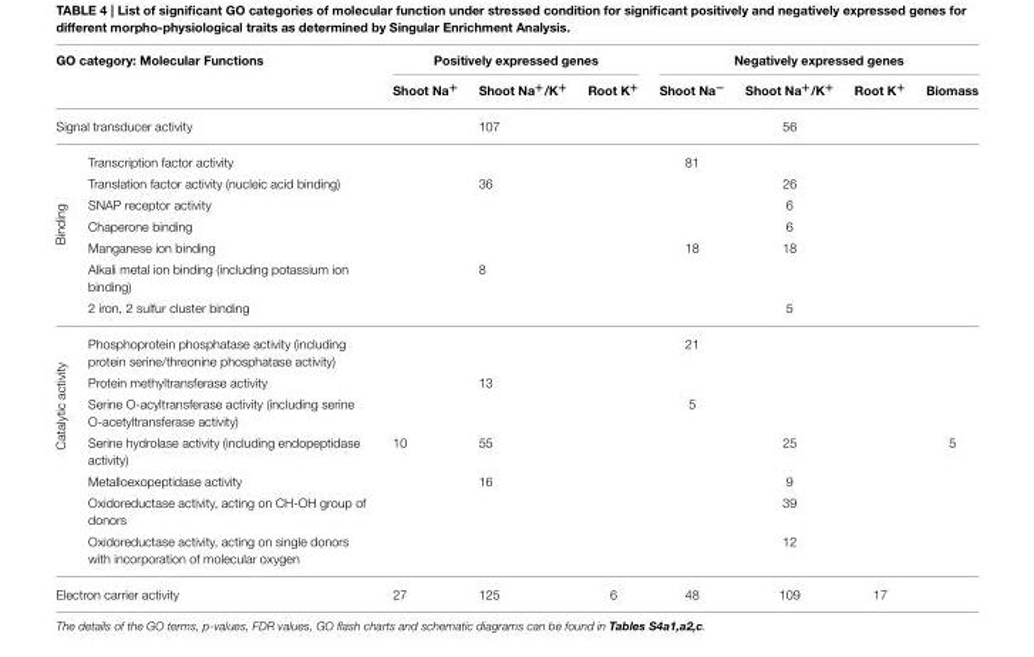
<table><thead><tr><td colspan="2">GO category: Molecular Functions</td><td colspan="3">Positively expressed genes</td><td colspan="4">Negatively expressed genes</td></tr><tr><td></td><td></td><td>Shoot Na<sup>+</sup></td><td>Shoot Na<sup>+</sup>/K<sup>+</sup></td><td>Root K<sup>+</sup></td><td>Shoot Na<sup>−</sup></td><td>Shoot Na<sup>+</sup>/K<sup>+</sup></td><td>Root K<sup>+</sup></td><td>Biomass</td></tr></thead><tbody><tr><td colspan="2">Signal transducer activity</td><td></td><td>107</td><td></td><td></td><td>56</td><td></td><td></td></tr><tr><td rowspan="7">Binding</td><td>Transcription factor activity</td><td></td><td></td><td></td><td>81</td><td></td><td></td><td></td></tr><tr><td>Translation factor activity (nucleic acid binding)</td><td></td><td>36</td><td></td><td></td><td>26</td><td></td><td></td></tr><tr><td>SNAP receptor activity</td><td></td><td></td><td></td><td></td><td>6</td><td></td><td></td></tr><tr><td>Chaperone binding</td><td></td><td></td><td></td><td></td><td>6</td><td></td><td></td></tr><tr><td>Manganese ion binding</td><td></td><td></td><td></td><td>18</td><td>18</td><td></td><td></td></tr><tr><td>Alkali metal ion binding (including potassium ion binding)</td><td></td><td>8</td><td></td><td></td><td></td><td></td><td></td></tr><tr><td>2 iron, 2 sulfur cluster binding</td><td></td><td></td><td></td><td></td><td>5</td><td></td><td></td></tr><tr><td rowspan="7">Catalytic activity</td><td>Phosphoprotein phosphatase activity (including protein serine/threonine phosphatase activity)</td><td></td><td></td><td></td><td>21</td><td></td><td></td><td></td></tr><tr><td>Protein methyltransferase activity</td><td></td><td>13</td><td></td><td></td><td></td><td></td><td></td></tr><tr><td>Serine O-acyltransferase activity (including serine O-acetyltransferase activity)</td><td></td><td></td><td></td><td>5</td><td></td><td></td><td></td></tr><tr><td>Serine hydrolase activity (including endopeptidase activity)</td><td>10</td><td>55</td><td></td><td></td><td>25</td><td></td><td>5</td></tr><tr><td>Metalloexopeptidase activity</td><td></td><td>16</td><td></td><td></td><td>9</td><td></td><td></td></tr><tr><td>Oxidoreductase activity, acting on CH-OH group of donors</td><td></td><td></td><td></td><td></td><td>39</td><td></td><td></td></tr><tr><td>Oxidoreductase activity, acting on single donors with incorporation of molecular oxygen</td><td></td><td></td><td></td><td></td><td>12</td><td></td><td></td></tr><tr><td colspan="2">Electron carrier activity</td><td>27</td><td>125</td><td>6</td><td>48</td><td>109</td><td>17</td><td></td></tr></tbody></table>